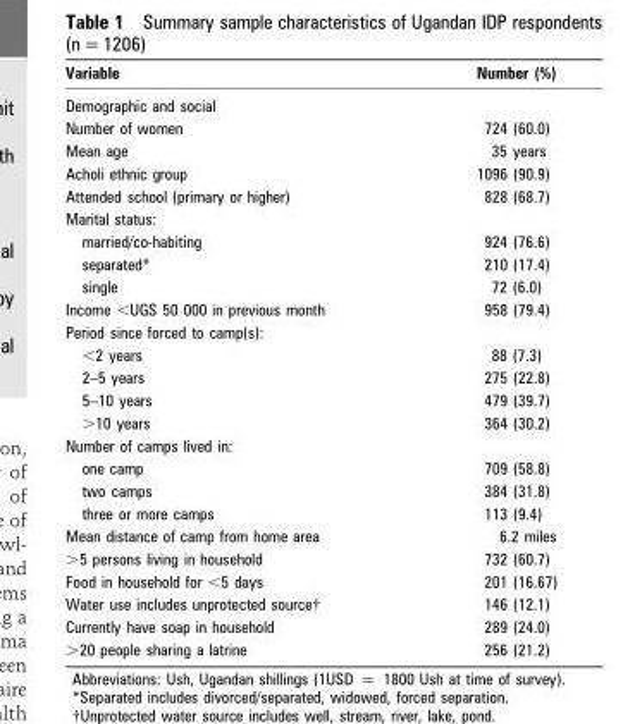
<table><thead><tr><td>Variable</td><td>Number (%)</td></tr></thead><tbody><tr><td colspan="2">Demographic and social</td></tr><tr><td>Number of women</td><td>724 (60.0)</td></tr><tr><td>Mean age</td><td>35 years</td></tr><tr><td>Acholi ethnic group</td><td>1096 (90.9)</td></tr><tr><td>Attended school (primary or higher)</td><td>828 (68.7)</td></tr><tr><td colspan="2">Marital status:</td></tr><tr><td>married/co-habiting</td><td>924 (76.6)</td></tr><tr><td>separated*</td><td>210 (17.4)</td></tr><tr><td>single</td><td>72 (6.0)</td></tr><tr><td>Income &lt;UGS 50 000 in previous month</td><td>958 (79.4)</td></tr><tr><td colspan="2">Period since forced to camp(s):</td></tr><tr><td>&lt;2 years</td><td>88 (7.3)</td></tr><tr><td>2–5 years</td><td>275 (22.8)</td></tr><tr><td>5–10 years</td><td>479 (39.7)</td></tr><tr><td>&gt;10 years</td><td>364 (30.2)</td></tr><tr><td colspan="2">Number of camps lived in:</td></tr><tr><td>one camp</td><td>709 (58.8)</td></tr><tr><td>two camps</td><td>384 (31.8)</td></tr><tr><td>three or more camps</td><td>113 (9.4)</td></tr><tr><td>Mean distance of camp from home area</td><td>6.2 miles</td></tr><tr><td>&gt;5 persons living in household</td><td>732 (60.7)</td></tr><tr><td>Food in household for &lt;5 days</td><td>201 (16.67)</td></tr><tr><td>Water use includes unprotected source†</td><td>146 (12.1)</td></tr><tr><td>Currently have soap in household</td><td>289 (24.0)</td></tr><tr><td>&gt;20 people sharing a latrine</td><td>256 (21.2)</td></tr></tbody></table>